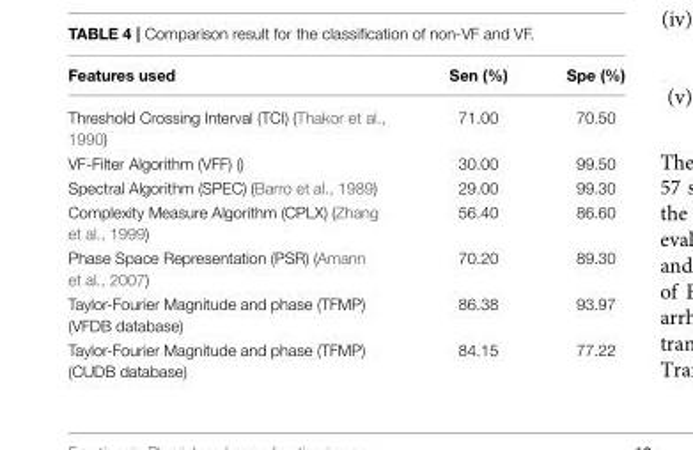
<table><thead><tr><td>Features used</td><td>Sen (%)</td><td>Spe (%)</td></tr></thead><tbody><tr><td>Threshold Crossing Interval (TCI) (Thakor et al., 1990)</td><td>71.00</td><td>70.50</td></tr><tr><td>VF-Filter Algorithm (VFF) ()</td><td>30.00</td><td>99.50</td></tr><tr><td>Spectral Algorithm (SPEC) (Barro et al., 1989)</td><td>29.00</td><td>99.30</td></tr><tr><td>Complexity Measure Algorithm (CPLX) (Zhang et al., 1999)</td><td>56.40</td><td>86.60</td></tr><tr><td>Phase Space Representation (PSR) (Amann et al., 2007)</td><td>70.20</td><td>89.30</td></tr><tr><td>Taylor-Fourier Magnitude and phase (TFMP) (VFDB database)</td><td>86.38</td><td>93.97</td></tr><tr><td>Taylor-Fourier Magnitude and phase (TFMP) (CUDB database)</td><td>84.15</td><td>77.22</td></tr></tbody></table>